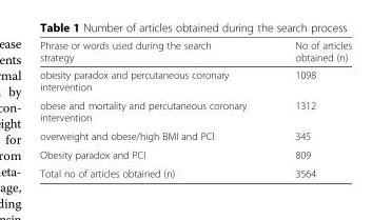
<table><thead><tr><td>Phrase or words used during the search strategy</td><td>No of articles obtained (n)</td></tr></thead><tbody><tr><td>obesity paradox and percutaneous coronary intervention</td><td>1098</td></tr><tr><td>obese and mortality and percutaneous coronary intervention</td><td>1312</td></tr><tr><td>overweight and obese/high BMI and PCI</td><td>345</td></tr><tr><td>Obesity paradox and PCI</td><td>809</td></tr><tr><td>Total no of articles obtained (n)</td><td>3564</td></tr></tbody></table>